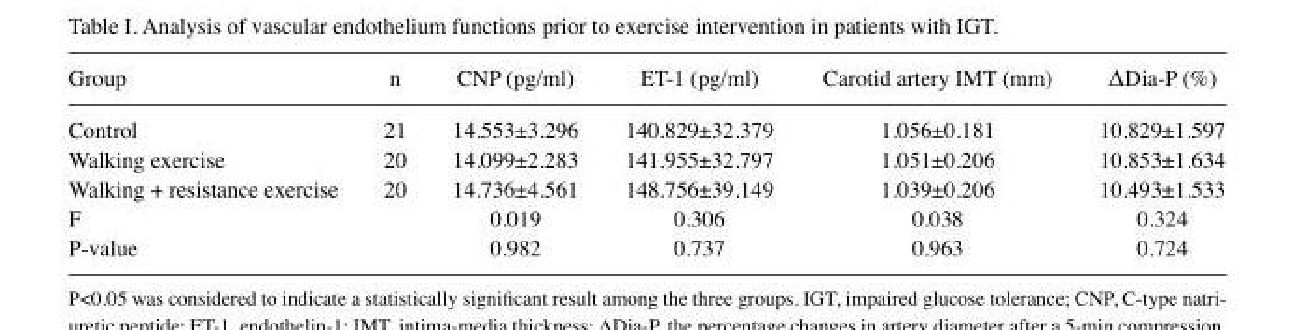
<table><thead><tr><td>Group</td><td>n</td><td>CNP (pg/ml)</td><td>ET-1 (pg/ml)</td><td>Carotid artery IMT (mm)</td><td>ΔDia-P (%)</td></tr></thead><tbody><tr><td>Control</td><td>21</td><td>14.553±3.296</td><td>140.829±32.379</td><td>1.056±0.181</td><td>10.829±1.597</td></tr><tr><td>Walking exercise</td><td>20</td><td>14.099±2.283</td><td>141.955±32.797</td><td>1.051±0.206</td><td>10.853±1.634</td></tr><tr><td>Walking + resistance exercise</td><td>20</td><td>14.736±4.561</td><td>148.756±39.149</td><td>1.039±0.206</td><td>10.493±1.533</td></tr><tr><td>F</td><td></td><td>0.019</td><td>0.306</td><td>0.038</td><td>0.324</td></tr><tr><td>P-value</td><td></td><td>0.982</td><td>0.737</td><td>0.963</td><td>0.724</td></tr></tbody></table>